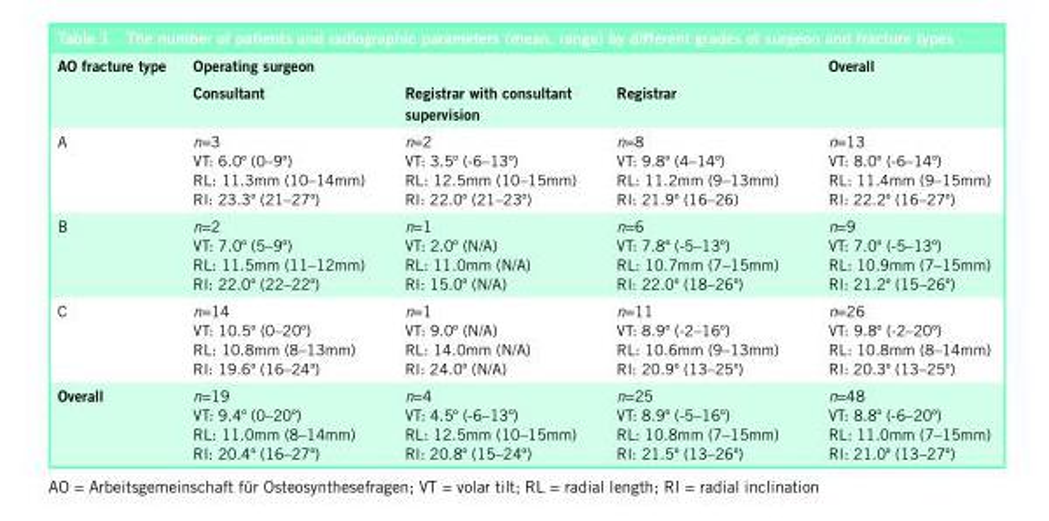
<table><thead><tr><td>AO fracture type</td><td>Operating surgeon Consultant</td><td>Registrar with consultant supervision</td><td>Registrar</td><td>Overall</td></tr></thead><tbody><tr><td>A</td><td>n=3 VT: 6.0º (0–9º) RL: 11.3mm (10–14mm) RI: 23.3º (21–27º)</td><td>n=2 VT: 3.5º (-6–13º) RL: 12.5mm (10–15mm) RI: 22.0º (21–23º)</td><td>n=8 VT: 9.8º (4–14º) RL: 11.2mm (9–13mm) RI: 21.9º (16–26)</td><td>n=13 VT: 8.0º (-6–14º) RL: 11.4mm (9–15mm) RI: 22.2º (16–27º)</td></tr><tr><td>B</td><td>n=2 VT: 7.0º (5–9º) RL: 11.5mm (11–12mm) RI: 22.0º (22–22º)</td><td>n=1 VT: 2.0º (N/A) RL: 11.0mm (N/A) RI: 15.0º (N/A)</td><td>n=6 VT: 7.8º (-5–13º) RL: 10.7mm (7–15mm) RI: 22.0º (18–26º)</td><td>n=9 VT: 7.0º (-5–13º) RL: 10.9mm (7–15mm) RI: 21.2º (15–26º)</td></tr><tr><td>C</td><td>n=14 VT: 10.5º (0–20º) RL: 10.8mm (8–13mm) RI: 19.6º (16–24º)</td><td>n=1 VT: 9.0º (N/A) RL: 14.0mm (N/A) RI: 24.0º (N/A)</td><td>n=11 VT: 8.9º (-2–16º) RL: 10.6mm (9–13mm) RI: 20.9º (13–25º)</td><td>n=26 VT: 9.8º (-2–20º) RL: 10.8mm (8–14mm) RI: 20.3º (13–25º)</td></tr><tr><td>Overall</td><td>n=19 VT: 9.4º (0–20º) RL: 11.0mm (8–14mm) RI: 20.4º (16–27º)</td><td>n=4 VT: 4.5º (-6–13º) RL: 12.5mm (10–15mm) RI: 20.8º (15–24º)</td><td>n=25 VT: 8.9º (-5–16º) RL: 10.8mm (7–15mm) RI: 21.5º (13–26º)</td><td>n=48 VT: 8.8º (-6–20º) RL: 11.0mm (7–15mm) RI: 21.0º (13–27º)</td></tr></tbody></table>